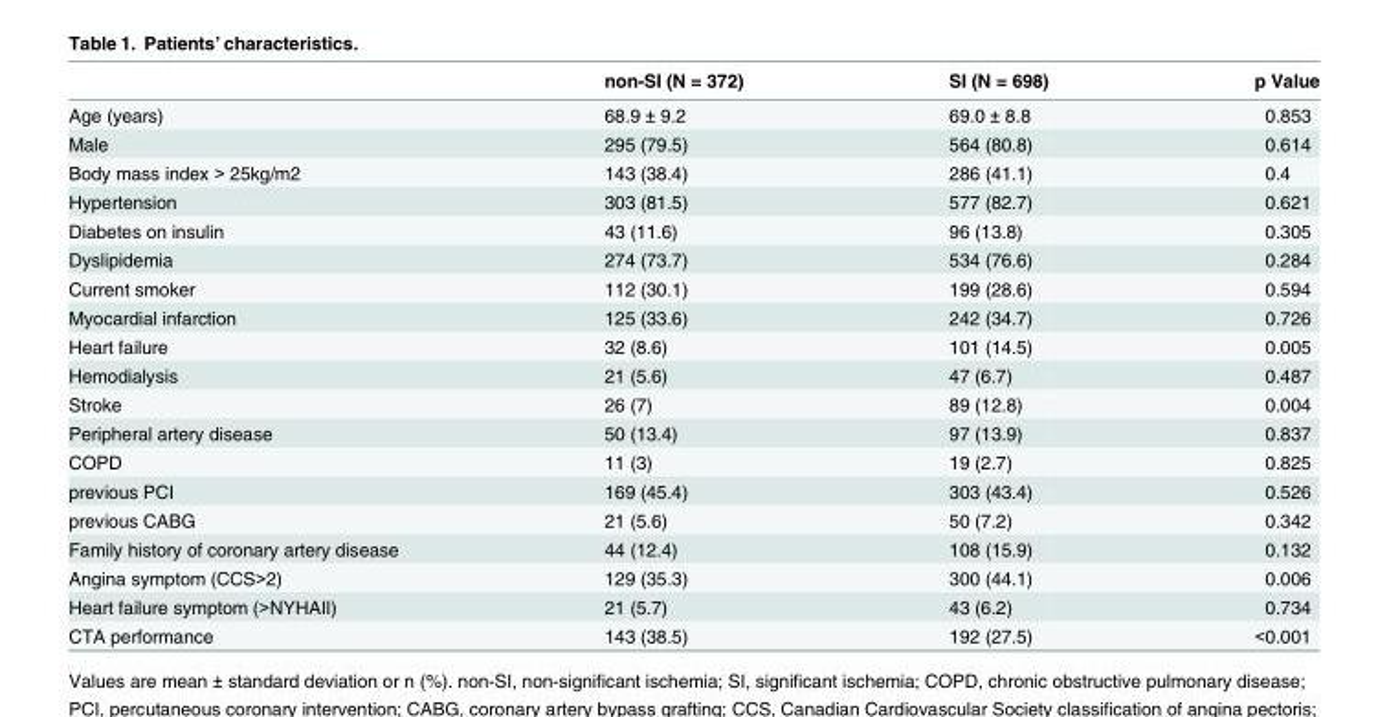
<table><thead><tr><td></td><td>non-SI (N = 372)</td><td>SI (N = 698)</td><td>p Value</td></tr></thead><tbody><tr><td>Age (years)</td><td>68.9 ± 9.2</td><td>69.0 ± 8.8</td><td>0.853</td></tr><tr><td>Male</td><td>295 (79.5)</td><td>564 (80.8)</td><td>0.614</td></tr><tr><td>Body mass index &gt; 25kg/m2</td><td>143 (38.4)</td><td>286 (41.1)</td><td>0.4</td></tr><tr><td>Hypertension</td><td>303 (81.5)</td><td>577 (82.7)</td><td>0.621</td></tr><tr><td>Diabetes on insulin</td><td>43 (11.6)</td><td>96 (13.8)</td><td>0.305</td></tr><tr><td>Dyslipidemia</td><td>274 (73.7)</td><td>534 (76.6)</td><td>0.284</td></tr><tr><td>Current smoker</td><td>112 (30.1)</td><td>199 (28.6)</td><td>0.594</td></tr><tr><td>Myocardial infarction</td><td>125 (33.6)</td><td>242 (34.7)</td><td>0.726</td></tr><tr><td>Heart failure</td><td>32 (8.6)</td><td>101 (14.5)</td><td>0.005</td></tr><tr><td>Hemodialysis</td><td>21 (5.6)</td><td>47 (6.7)</td><td>0.487</td></tr><tr><td>Stroke</td><td>26 (7)</td><td>89 (12.8)</td><td>0.004</td></tr><tr><td>Peripheral artery disease</td><td>50 (13.4)</td><td>97 (13.9)</td><td>0.837</td></tr><tr><td>COPD</td><td>11 (3)</td><td>19 (2.7)</td><td>0.825</td></tr><tr><td>previous PCI</td><td>169 (45.4)</td><td>303 (43.4)</td><td>0.526</td></tr><tr><td>previous CABG</td><td>21 (5.6)</td><td>50 (7.2)</td><td>0.342</td></tr><tr><td>Family history of coronary artery disease</td><td>44 (12.4)</td><td>108 (15.9)</td><td>0.132</td></tr><tr><td>Angina symptom (CCS&gt;2)</td><td>129 (35.3)</td><td>300 (44.1)</td><td>0.006</td></tr><tr><td>Heart failure symptom (&gt;NYHAII)</td><td>21 (5.7)</td><td>43 (6.2)</td><td>0.734</td></tr><tr><td>CTA performance</td><td>143 (38.5)</td><td>192 (27.5)</td><td>&lt;0.001</td></tr></tbody></table>